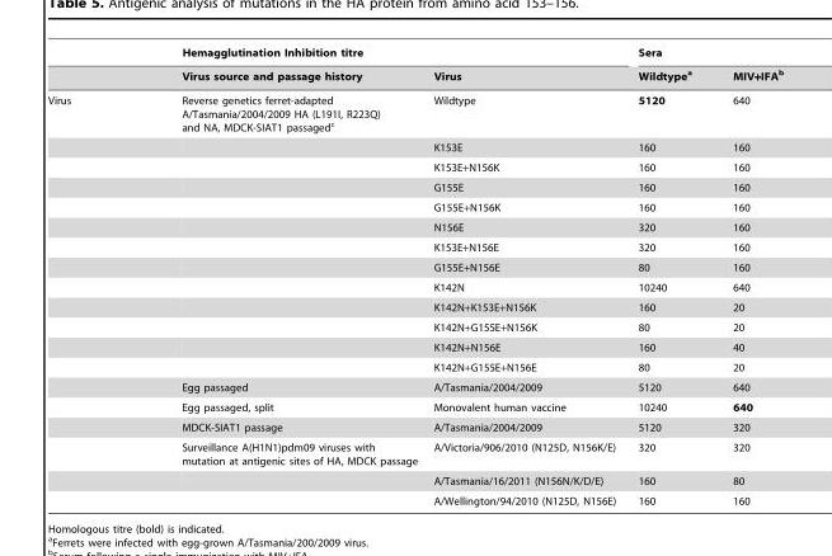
<table><thead><tr><td colspan="3">Hemagglutination Inhibition titre</td><td colspan="2">Sera</td></tr><tr><td></td><td>Virus source and passage history</td><td>Virus</td><td>Wildtype<sup>a</sup></td><td>MIV+IFA<sup>b</sup></td></tr></thead><tbody><tr><td rowspan="19">Virus</td><td>Reverse genetics ferret-adapted A/Tasmania/2004/2009 HA (L191I, R223Q) and NA, MDCK-SIAT1 passaged<sup>c</sup></td><td>Wildtype</td><td>5120</td><td>640</td></tr><tr><td></td><td>K153E</td><td>160</td><td>160</td></tr><tr><td></td><td>K153E+N156K</td><td>160</td><td>160</td></tr><tr><td></td><td>G155E</td><td>160</td><td>160</td></tr><tr><td></td><td>G155E+N156K</td><td>160</td><td>160</td></tr><tr><td></td><td>N156E</td><td>320</td><td>160</td></tr><tr><td></td><td>K153E+N156E</td><td>320</td><td>160</td></tr><tr><td></td><td>G155E+N156E</td><td>80</td><td>160</td></tr><tr><td></td><td>K142N</td><td>10240</td><td>640</td></tr><tr><td></td><td>K142N+K153E+N156K</td><td>160</td><td>20</td></tr><tr><td></td><td>K142N+G155E+N156K</td><td>80</td><td>20</td></tr><tr><td></td><td>K142N+N156E</td><td>160</td><td>40</td></tr><tr><td></td><td>K142N+G155E+N156E</td><td>80</td><td>20</td></tr><tr><td>Egg passaged</td><td>A/Tasmania/2004/2009</td><td>5120</td><td>640</td></tr><tr><td>Egg passaged, split</td><td>Monovalent human vaccine</td><td>10240</td><td>640</td></tr><tr><td>MDCK-SIAT1 passage</td><td>A/Tasmania/2004/2009</td><td>5120</td><td>320</td></tr><tr><td>Surveillance A(H1N1)pdm09 viruses with mutation at antigenic sites of HA, MDCK passage</td><td>A/Victoria/906/2010 (N125D, N156K/E)</td><td>320</td><td>320</td></tr><tr><td></td><td>A/Tasmania/16/2011 (N156N/K/D/E)</td><td>160</td><td>80</td></tr><tr><td></td><td>A/Wellington/94/2010 (N125D, N156E)</td><td>160</td><td>160</td></tr></tbody></table>